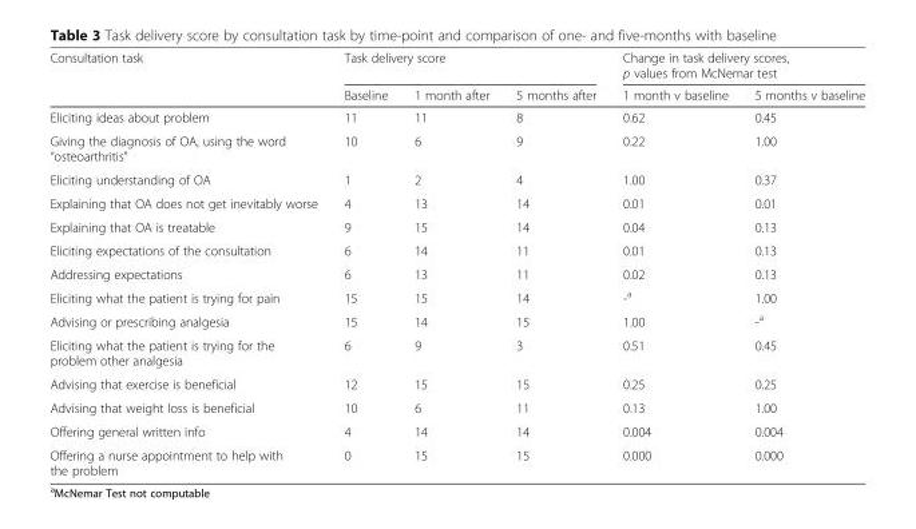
<table><thead><tr><td rowspan="2">Consultation task</td><td colspan="3">Task delivery score</td><td colspan="2">Change in task delivery scores, p values from McNemar test</td></tr><tr><td>Baseline</td><td>1 month after</td><td>5 months after</td><td>1 month v baseline</td><td>5 months v baseline</td></tr></thead><tbody><tr><td>Eliciting ideas about problem</td><td>11</td><td>11</td><td>8</td><td>0.62</td><td>0.45</td></tr><tr><td>Giving the diagnosis of OA, using the word “osteoarthritis”</td><td>10</td><td>6</td><td>9</td><td>0.22</td><td>1.00</td></tr><tr><td>Eliciting understanding of OA</td><td>1</td><td>2</td><td>4</td><td>1.00</td><td>0.37</td></tr><tr><td>Explaining that OA does not get inevitably worse</td><td>4</td><td>13</td><td>14</td><td>0.01</td><td>0.01</td></tr><tr><td>Explaining that OA is treatable</td><td>9</td><td>15</td><td>14</td><td>0.04</td><td>0.13</td></tr><tr><td>Eliciting expectations of the consultation</td><td>6</td><td>14</td><td>11</td><td>0.01</td><td>0.13</td></tr><tr><td>Addressing expectations</td><td>6</td><td>13</td><td>11</td><td>0.02</td><td>0.13</td></tr><tr><td>Eliciting what the patient is trying for pain</td><td>15</td><td>15</td><td>14</td><td>-<sup>a</sup></td><td>1.00</td></tr><tr><td>Advising or prescribing analgesia</td><td>15</td><td>14</td><td>15</td><td>1.00</td><td>-<sup>a</sup></td></tr><tr><td>Eliciting what the patient is trying for the problem other analgesia</td><td>6</td><td>9</td><td>3</td><td>0.51</td><td>0.45</td></tr><tr><td>Advising that exercise is beneficial</td><td>12</td><td>15</td><td>15</td><td>0.25</td><td>0.25</td></tr><tr><td>Advising that weight loss is beneficial</td><td>10</td><td>6</td><td>11</td><td>0.13</td><td>1.00</td></tr><tr><td>Offering general written info</td><td>4</td><td>14</td><td>14</td><td>0.004</td><td>0.004</td></tr><tr><td>Offering a nurse appointment to help with the problem</td><td>0</td><td>15</td><td>15</td><td>0.000</td><td>0.000</td></tr></tbody></table>